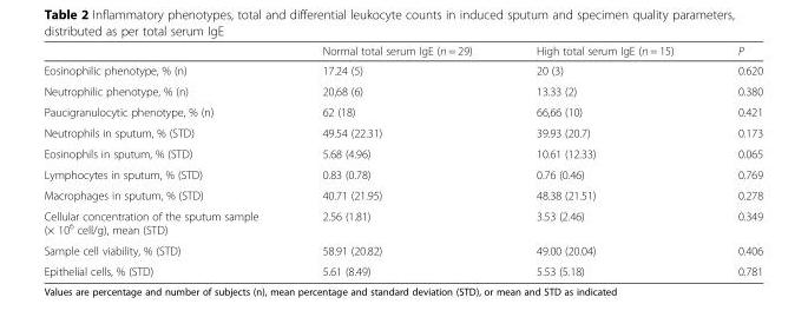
<table><thead><tr><td></td><td>Normal total serum IgE (n = 29)</td><td>High total serum IgE (n = 15)</td><td>P</td></tr></thead><tbody><tr><td>Eosinophilic phenotype, % (n)</td><td>17.24 (5)</td><td>20 (3)</td><td>0.620</td></tr><tr><td>Neutrophilic phenotype, % (n)</td><td>20,68 (6)</td><td>13.33 (2)</td><td>0.380</td></tr><tr><td>Paucigranulocytic phenotype, % (n)</td><td>62 (18)</td><td>66,66 (10)</td><td>0.421</td></tr><tr><td>Neutrophils in sputum, % (STD)</td><td>49.54 (22.31)</td><td>39.93 (20.7)</td><td>0.173</td></tr><tr><td>Eosinophils in sputum, % (STD)</td><td>5.68 (4.96)</td><td>10.61 (12.33)</td><td>0.065</td></tr><tr><td>Lymphocytes in sputum, % (STD)</td><td>0.83 (0.78)</td><td>0.76 (0.46)</td><td>0.769</td></tr><tr><td>Macrophages in sputum, % (STD)</td><td>40.71 (21.95)</td><td>48.38 (21.51)</td><td>0.278</td></tr><tr><td>Cellular concentration of the sputum sample (× 10<sup>6</sup> cell/g), mean (STD)</td><td>2.56 (1.81)</td><td>3.53 (2.46)</td><td>0.349</td></tr><tr><td>Sample cell viability, % (STD)</td><td>58.91 (20.82)</td><td>49.00 (20.04)</td><td>0.406</td></tr><tr><td>Epithelial cells, % (STD)</td><td>5.61 (8.49)</td><td>5.53 (5.18)</td><td>0.781</td></tr></tbody></table>